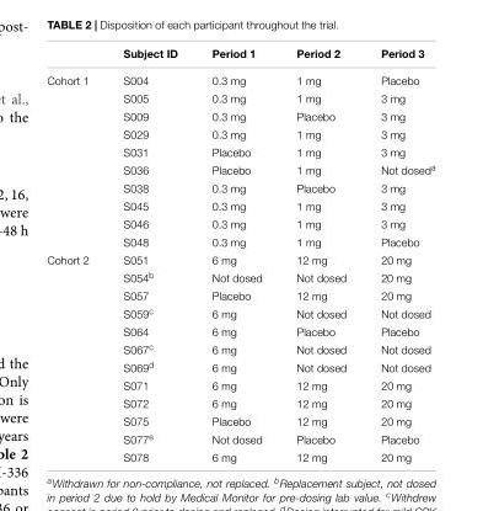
<table><thead><tr><td></td><td>Subject ID</td><td>Period 1</td><td>Period 2</td><td>Period 3</td></tr></thead><tbody><tr><td rowspan="10">Cohort 1</td><td>S004</td><td>0.3 mg</td><td>1 mg</td><td>Placebo</td></tr><tr><td>S005</td><td>0.3 mg</td><td>1 mg</td><td>3 mg</td></tr><tr><td>S009</td><td>0.3 mg</td><td>Placebo</td><td>3 mg</td></tr><tr><td>S029</td><td>0.3 mg</td><td>1 mg</td><td>3 mg</td></tr><tr><td>S031</td><td>Placebo</td><td>1 mg</td><td>3 mg</td></tr><tr><td>S036</td><td>Placebo</td><td>1 mg</td><td>Not dosed<sup>a</sup></td></tr><tr><td>S038</td><td>0.3 mg</td><td>Placebo</td><td>3 mg</td></tr><tr><td>S045</td><td>0.3 mg</td><td>1 mg</td><td>3 mg</td></tr><tr><td>S046</td><td>0.3 mg</td><td>1 mg</td><td>3 mg</td></tr><tr><td>S048</td><td>0.3 mg</td><td>1 mg</td><td>Placebo</td></tr><tr><td rowspan="12">Cohort 2</td><td>S051</td><td>6 mg</td><td>12 mg</td><td>20 mg</td></tr><tr><td>S054<sup>b</sup></td><td>Not dosed</td><td>Not dosed</td><td>20 mg</td></tr><tr><td>S057</td><td>Placebo</td><td>12 mg</td><td>20 mg</td></tr><tr><td>S059<sup>c</sup></td><td>6 mg</td><td>Not dosed</td><td>Not dosed</td></tr><tr><td>S064</td><td>6 mg</td><td>Placebo</td><td>Placebo</td></tr><tr><td>S067<sup>c</sup></td><td>6 mg</td><td>Not dosed</td><td>Not dosed</td></tr><tr><td>S069<sup>d</sup></td><td>6 mg</td><td>Not dosed</td><td>Not dosed</td></tr><tr><td>S071</td><td>6 mg</td><td>12 mg</td><td>20 mg</td></tr><tr><td>S072</td><td>6 mg</td><td>12 mg</td><td>20 mg</td></tr><tr><td>S075</td><td>Placebo</td><td>12 mg</td><td>20 mg</td></tr><tr><td>S077<sup>e</sup></td><td>Not dosed</td><td>Placebo</td><td>Placebo</td></tr><tr><td>S078</td><td>6 mg</td><td>12 mg</td><td>20 mg</td></tr></tbody></table>